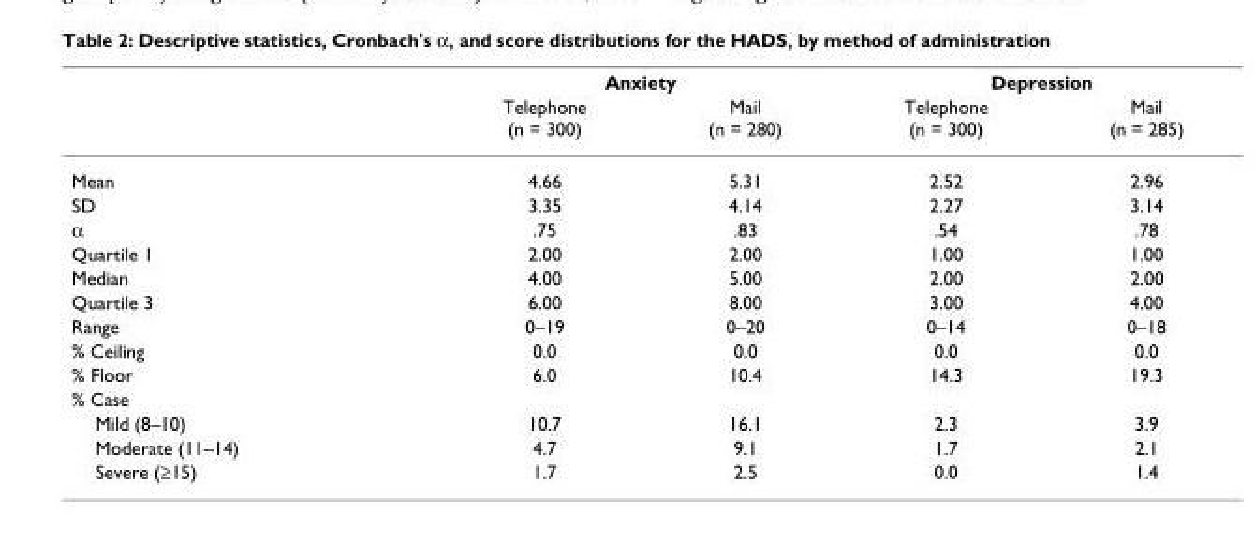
<table><thead><tr><td rowspan="2"></td><td colspan="2">Anxiety</td><td colspan="2">Depression</td></tr><tr><td>Telephone (n = 300)</td><td>Mail (n = 280)</td><td>Telephone (n = 300)</td><td>Mail (n = 285)</td></tr></thead><tbody><tr><td>Mean</td><td>4.66</td><td>5.31</td><td>2.52</td><td>2.96</td></tr><tr><td>SD</td><td>3.35</td><td>4.14</td><td>2.27</td><td>3.14</td></tr><tr><td>α</td><td>.75</td><td>.83</td><td>.54</td><td>.78</td></tr><tr><td>Quartile 1</td><td>2.00</td><td>2.00</td><td>1.00</td><td>1.00</td></tr><tr><td>Median</td><td>4.00</td><td>5.00</td><td>2.00</td><td>2.00</td></tr><tr><td>Quartile 3</td><td>6.00</td><td>8.00</td><td>3.00</td><td>4.00</td></tr><tr><td>Range</td><td>0–19</td><td>0–20</td><td>0–14</td><td>0–18</td></tr><tr><td>% Ceiling</td><td>0.0</td><td>0.0</td><td>0.0</td><td>0.0</td></tr><tr><td>% Floor</td><td>6.0</td><td>10.4</td><td>14.3</td><td>19.3</td></tr><tr><td colspan="5">% Case</td></tr><tr><td>Mild (8–10)</td><td>10.7</td><td>16.1</td><td>2.3</td><td>3.9</td></tr><tr><td>Moderate (11–14)</td><td>4.7</td><td>9.1</td><td>1.7</td><td>2.1</td></tr><tr><td>Severe (≥15)</td><td>1.7</td><td>2.5</td><td>0.0</td><td>1.4</td></tr></tbody></table>